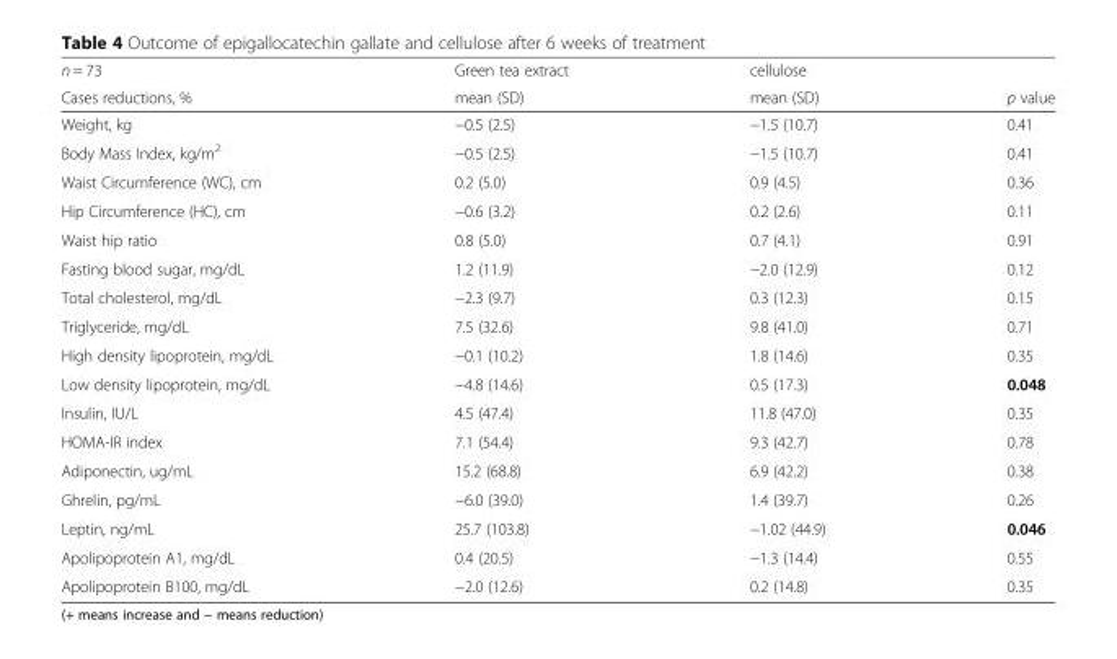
<table><thead><tr><td rowspan="2">n = 73 Cases reductions, %</td><td rowspan="2">Green tea extract mean (SD)</td><td rowspan="2">cellulose mean (SD)</td><td rowspan="2">p value</td></tr><tr></tr></thead><tbody><tr><td>Weight, kg</td><td>−0.5 (2.5)</td><td>−1.5 (10.7)</td><td>0.41</td></tr><tr><td>Body Mass Index, kg/m<sup>2</sup></td><td>−0.5 (2.5)</td><td>−1.5 (10.7)</td><td>0.41</td></tr><tr><td>Waist Circumference (WC), cm</td><td>0.2 (5.0)</td><td>0.9 (4.5)</td><td>0.36</td></tr><tr><td>Hip Circumference (HC), cm</td><td>−0.6 (3.2)</td><td>0.2 (2.6)</td><td>0.11</td></tr><tr><td>Waist hip ratio</td><td>0.8 (5.0)</td><td>0.7 (4.1)</td><td>0.91</td></tr><tr><td>Fasting blood sugar, mg/dL</td><td>1.2 (11.9)</td><td>−2.0 (12.9)</td><td>0.12</td></tr><tr><td>Total cholesterol, mg/dL</td><td>−2.3 (9.7)</td><td>0.3 (12.3)</td><td>0.15</td></tr><tr><td>Triglyceride, mg/dL</td><td>7.5 (32.6)</td><td>9.8 (41.0)</td><td>0.71</td></tr><tr><td>High density lipoprotein, mg/dL</td><td>−0.1 (10.2)</td><td>1.8 (14.6)</td><td>0.35</td></tr><tr><td>Low density lipoprotein, mg/dL</td><td>−4.8 (14.6)</td><td>0.5 (17.3)</td><td>0.048</td></tr><tr><td>Insulin, IU/L</td><td>4.5 (47.4)</td><td>11.8 (47.0)</td><td>0.35</td></tr><tr><td>HOMA-IR index</td><td>7.1 (54.4)</td><td>9.3 (42.7)</td><td>0.78</td></tr><tr><td>Adiponectin, ug/mL</td><td>15.2 (68.8)</td><td>6.9 (42.2)</td><td>0.38</td></tr><tr><td>Ghrelin, pg/mL</td><td>−6.0 (39.0)</td><td>1.4 (39.7)</td><td>0.26</td></tr><tr><td>Leptin, ng/mL</td><td>25.7 (103.8)</td><td>−1.02 (44.9)</td><td>0.046</td></tr><tr><td>Apolipoprotein A1, mg/dL</td><td>0.4 (20.5)</td><td>−1.3 (14.4)</td><td>0.55</td></tr><tr><td>Apolipoprotein B100, mg/dL</td><td>−2.0 (12.6)</td><td>0.2 (14.8)</td><td>0.35</td></tr></tbody></table>